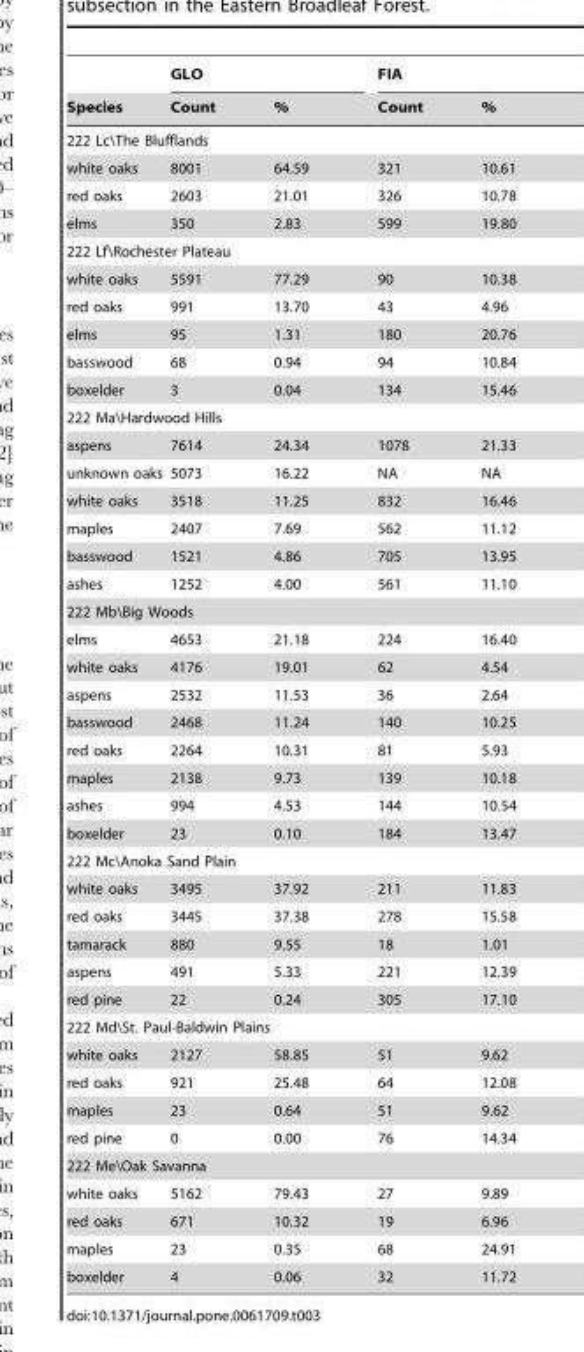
<table><thead><tr><td rowspan="2">Species</td><td colspan="2">GLO</td><td colspan="2">FIA</td></tr><tr><td>Count</td><td>%</td><td>Count</td><td>%</td></tr></thead><tbody><tr><td colspan="5">222 Lc\The Blufflands</td></tr><tr><td>white oaks</td><td>8001</td><td>64.59</td><td>321</td><td>10.61</td></tr><tr><td>red oaks</td><td>2603</td><td>21.01</td><td>326</td><td>10.78</td></tr><tr><td>elms</td><td>350</td><td>2.83</td><td>599</td><td>19.80</td></tr><tr><td colspan="5">222 Lf\Rochester Plateau</td></tr><tr><td>white oaks</td><td>5591</td><td>77.29</td><td>90</td><td>10.38</td></tr><tr><td>red oaks</td><td>991</td><td>13.70</td><td>43</td><td>4.96</td></tr><tr><td>elms</td><td>95</td><td>1.31</td><td>180</td><td>20.76</td></tr><tr><td>basswood</td><td>68</td><td>0.94</td><td>94</td><td>10.84</td></tr><tr><td>boxelder</td><td>3</td><td>0.04</td><td>134</td><td>15.46</td></tr><tr><td colspan="5">222 Ma\Hardwood Hills</td></tr><tr><td>aspens</td><td>7614</td><td>24.34</td><td>1078</td><td>21.33</td></tr><tr><td>unknown oaks</td><td>5073</td><td>16.22</td><td>NA</td><td>NA</td></tr><tr><td>white oaks</td><td>3518</td><td>11.25</td><td>832</td><td>16.46</td></tr><tr><td>maples</td><td>2407</td><td>7.69</td><td>562</td><td>11.12</td></tr><tr><td>basswood</td><td>1521</td><td>4.86</td><td>705</td><td>13.95</td></tr><tr><td>ashes</td><td>1252</td><td>4.00</td><td>561</td><td>11.10</td></tr><tr><td colspan="5">222 Mb\Big Woods</td></tr><tr><td>elms</td><td>4653</td><td>21.18</td><td>224</td><td>16.40</td></tr><tr><td>white oaks</td><td>4176</td><td>19.01</td><td>62</td><td>4.54</td></tr><tr><td>aspens</td><td>2532</td><td>11.53</td><td>36</td><td>2.64</td></tr><tr><td>basswood</td><td>2468</td><td>11.24</td><td>140</td><td>10.25</td></tr><tr><td>red oaks</td><td>2264</td><td>10.31</td><td>81</td><td>5.93</td></tr><tr><td>maples</td><td>2138</td><td>9.73</td><td>139</td><td>10.18</td></tr><tr><td>ashes</td><td>994</td><td>4.53</td><td>144</td><td>10.54</td></tr><tr><td>boxelder</td><td>23</td><td>0.10</td><td>184</td><td>13.47</td></tr><tr><td colspan="5">222 Mc\Anoka Sand Plain</td></tr><tr><td>white oaks</td><td>3495</td><td>37.92</td><td>211</td><td>11.83</td></tr><tr><td>red oaks</td><td>3445</td><td>37.38</td><td>278</td><td>15.58</td></tr><tr><td>tamarack</td><td>880</td><td>9.55</td><td>18</td><td>1.01</td></tr><tr><td>aspens</td><td>491</td><td>5.33</td><td>221</td><td>12.39</td></tr><tr><td>red pine</td><td>22</td><td>0.24</td><td>305</td><td>17.10</td></tr><tr><td colspan="5">222 Md\St. Paul-Baldwin Plains</td></tr><tr><td>white oaks</td><td>2127</td><td>58.85</td><td>51</td><td>9.62</td></tr><tr><td>red oaks</td><td>921</td><td>25.48</td><td>64</td><td>12.08</td></tr><tr><td>maples</td><td>23</td><td>0.64</td><td>51</td><td>9.62</td></tr><tr><td>red pine</td><td>0</td><td>0.00</td><td>76</td><td>14.34</td></tr><tr><td colspan="5">222 Me\Oak Savanna</td></tr><tr><td>white oaks</td><td>5162</td><td>79.43</td><td>27</td><td>9.89</td></tr><tr><td>red oaks</td><td>671</td><td>10.32</td><td>19</td><td>6.96</td></tr><tr><td>maples</td><td>23</td><td>0.35</td><td>68</td><td>24.91</td></tr><tr><td>boxelder</td><td>4</td><td>0.06</td><td>32</td><td>11.72</td></tr></tbody></table>